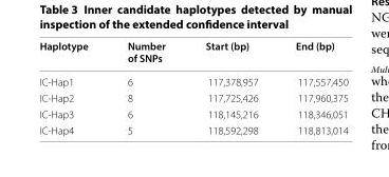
<table><thead><tr><td>Haplotype</td><td>Number of SNPs</td><td>Start (bp)</td><td>End (bp)</td></tr></thead><tbody><tr><td>IC-Hap1</td><td>6</td><td>117,378,957</td><td>117,557,450</td></tr><tr><td>IC-Hap2</td><td>8</td><td>117,725,426</td><td>117,960,375</td></tr><tr><td>IC-Hap3</td><td>6</td><td>118,145,216</td><td>118,346,051</td></tr><tr><td>IC-Hap4</td><td>5</td><td>118,592,298</td><td>118,813,014</td></tr></tbody></table>